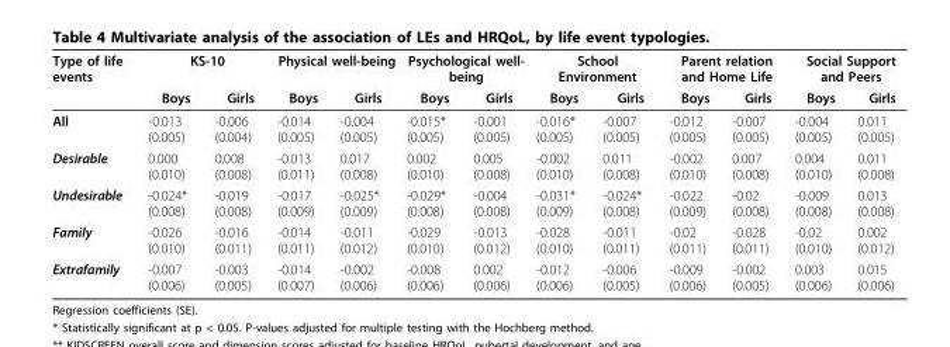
<table><thead><tr><td rowspan="2">Type of life events</td><td colspan="2">KS-10</td><td colspan="2">Physical well-being</td><td colspan="2">Psychological well- being</td><td colspan="2">School Environment</td><td colspan="2">Parent relation and Home Life</td><td colspan="2">Social Support and Peers</td></tr><tr><td>Boys</td><td>Girls</td><td>Boys</td><td>Girls</td><td>Boys</td><td>Girls</td><td>Boys</td><td>Girls</td><td>Boys</td><td>Girls</td><td>Boys</td><td>Girls</td></tr></thead><tbody><tr><td>All</td><td>-0.013 (0.005)</td><td>-0.006 (0.004)</td><td>-0.014 (0.005)</td><td>-0.004 (0.005)</td><td>-0.015* (0.005)</td><td>-0.001 (0.005)</td><td>-0.016* (0.005)</td><td>-0.007 (0.005)</td><td>-0.012 (0.005)</td><td>-0.007 (0.005)</td><td>-0.004 (0.005)</td><td>0.011 (0.005)</td></tr><tr><td>Desirable</td><td>0.000 (0.010)</td><td>0.008 (0.008)</td><td>-0.013 (0.011)</td><td>0.017 (0.008)</td><td>0.002 (0.010)</td><td>0.005 (0.008)</td><td>-0.002 (0.010)</td><td>0.011 (0.008)</td><td>-0.002 (0.010)</td><td>0.007 (0.008)</td><td>0.004 (0.010)</td><td>0.011 (0.008)</td></tr><tr><td>Undesirable</td><td>-0.024* (0.008)</td><td>-0.019 (0.008)</td><td>-0.017 (0.009)</td><td>-0.025* (0.009)</td><td>-0.029* (0.008)</td><td>-0.004 (0.008)</td><td>-0.031* (0.009)</td><td>-0.024* (0.008)</td><td>-0.022 (0.009)</td><td>-0.02 (0.008)</td><td>-0.009 (0.008)</td><td>0.013 (0.008)</td></tr><tr><td>Family</td><td>-0.026 (0.010)</td><td>-0.016 (0.011)</td><td>-0.014 (0.011)</td><td>-0.011 (0.012)</td><td>-0.029 (0.010)</td><td>-0.013 (0.012)</td><td>-0.028 (0.010)</td><td>-0.011 (0.011)</td><td>-0.02 (0.011)</td><td>-0.028 (0.011)</td><td>-0.02 (0.010)</td><td>0.002 (0.012)</td></tr><tr><td>Extrafamily</td><td>-0.007 (0.006)</td><td>-0.003 (0.005)</td><td>-0.014 (0.007)</td><td>-0.002 (0.006)</td><td>-0.008 (0.006)</td><td>0.002 (0.006)</td><td>-0.012 (0.006)</td><td>-0.006 (0.005)</td><td>-0.009 (0.006)</td><td>-0.002 (0.005)</td><td>0.003 (0.006)</td><td>0.015 (0.006)</td></tr></tbody></table>